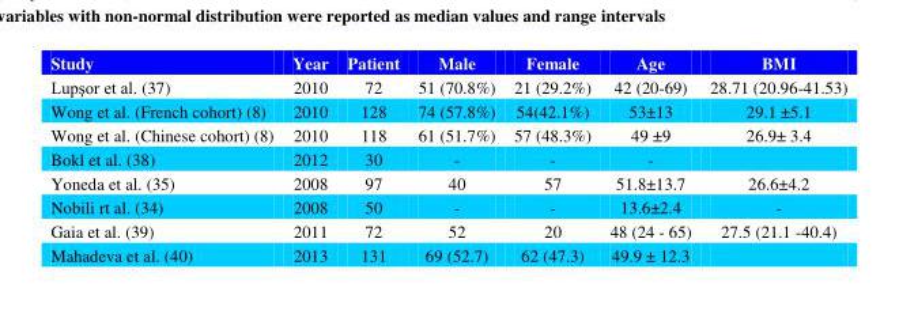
<table><thead><tr><td>Study</td><td>Year</td><td>Patient</td><td>Male</td><td>Female</td><td>Age</td><td>BMI</td></tr></thead><tbody><tr><td>Lupşor et al. (37)</td><td>2010</td><td>72</td><td>51 (70.8%)</td><td>21 (29.2%)</td><td>42 (20-69)</td><td>28.71 (20.96-41.53)</td></tr><tr><td>Wong et al. (French cohort) (8)</td><td>2010</td><td>128</td><td>74 (57.8%)</td><td>54(42.1%)</td><td>53±13</td><td>29.1 ±5.1</td></tr><tr><td>Wong et al. (Chinese cohort) (8)</td><td>2010</td><td>118</td><td>61 (51.7%)</td><td>57 (48.3%)</td><td>49 ±9</td><td>26.9± 3.4</td></tr><tr><td>Bokl et al. (38)</td><td>2012</td><td>30</td><td>-</td><td>-</td><td>-</td><td></td></tr><tr><td>Yoneda et al. (35)</td><td>2008</td><td>97</td><td>40</td><td>57</td><td>51.8±13.7</td><td>26.6±4.2</td></tr><tr><td>Nobili rt al. (34)</td><td>2008</td><td>50</td><td>-</td><td>-</td><td>13.6±2.4</td><td>-</td></tr><tr><td>Gaia et al. (39)</td><td>2011</td><td>72</td><td>52</td><td>20</td><td>48 (24 - 65)</td><td>27.5 (21.1 -40.4)</td></tr><tr><td>Mahadeva et al. (40)</td><td>2013</td><td>131</td><td>69 (52.7)</td><td>62 (47.3)</td><td>49.9 ± 12.3</td><td></td></tr></tbody></table>